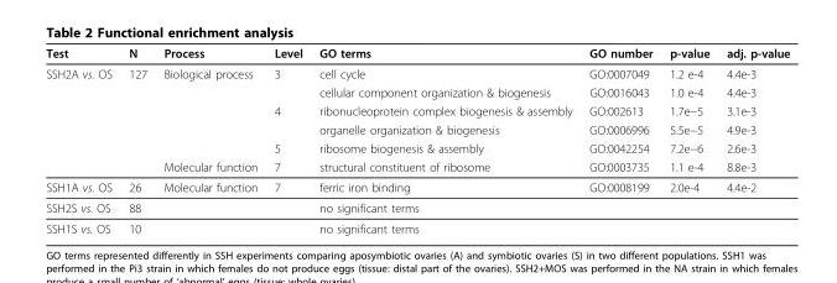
<table><thead><tr><td>Test</td><td>N</td><td>Process</td><td>Level</td><td>GO terms</td><td>GO number</td><td>p-value</td><td>adj. p-value</td></tr></thead><tbody><tr><td rowspan="6">SSH2A vs. OS</td><td>127</td><td>Biological process</td><td>3</td><td>cell cycle</td><td>GO:0007049</td><td>1.2 e-4</td><td>4.4e-3</td></tr><tr><td></td><td></td><td></td><td>cellular component organization &amp; biogenesis</td><td>GO:0016043</td><td>1.0 e-4</td><td>4.4e-3</td></tr><tr><td></td><td></td><td>4</td><td>ribonucleoprotein complex biogenesis &amp; assembly</td><td>GO:002613</td><td>1.7e−5</td><td>3.1e-3</td></tr><tr><td></td><td></td><td></td><td>organelle organization &amp; biogenesis</td><td>GO:0006996</td><td>5.5e−5</td><td>4.9e-3</td></tr><tr><td></td><td></td><td>5</td><td>ribosome biogenesis &amp; assembly</td><td>GO:0042254</td><td>7.2e−6</td><td>2.6e-3</td></tr><tr><td></td><td>Molecular function</td><td>7</td><td>structural constituent of ribosome</td><td>GO:0003735</td><td>1.1 e-4</td><td>8.8e-3</td></tr><tr><td>SSH1A vs. OS</td><td>26</td><td>Molecular function</td><td>7</td><td>ferric iron binding</td><td>GO:0008199</td><td>2.0e-4</td><td>4.4e-2</td></tr><tr><td>SSH2S vs. OS</td><td>88</td><td></td><td></td><td>no significant terms</td><td></td><td></td><td></td></tr><tr><td>SSH1S vs. OS</td><td>10</td><td></td><td></td><td>no significant terms</td><td></td><td></td><td></td></tr></tbody></table>